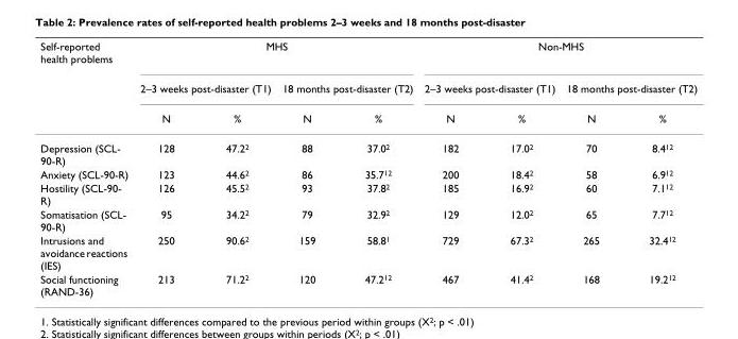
<table><thead><tr><td rowspan="3">Self-reported health problems</td><td colspan="4">MHS</td><td colspan="4">Non-MHS</td></tr><tr><td colspan="2">2–3 weeks post-disaster (T1)</td><td colspan="2">18 months post-disaster (T2)</td><td colspan="2">2–3 weeks post-disaster (T1)</td><td colspan="2">18 months post-disaster (T2)</td></tr><tr><td>N</td><td>%</td><td>N</td><td>%</td><td>N</td><td>%</td><td>N</td><td>%</td></tr></thead><tbody><tr><td>Depression (SCL- 90-R)</td><td>128</td><td>47.2<sup>2</sup></td><td>88</td><td>37.0<sup>2</sup></td><td>182</td><td>17.0<sup>2</sup></td><td>70</td><td>8.4<sup>12</sup></td></tr><tr><td>Anxiety (SCL-90-R)</td><td>123</td><td>44.6<sup>2</sup></td><td>86</td><td>35.7<sup>12</sup></td><td>200</td><td>18.4<sup>2</sup></td><td>58</td><td>6.9<sup>12</sup></td></tr><tr><td>Hostility (SCL-90- R)</td><td>126</td><td>45.5<sup>2</sup></td><td>93</td><td>37.8<sup>2</sup></td><td>185</td><td>16.9<sup>2</sup></td><td>60</td><td>7.1<sup>12</sup></td></tr><tr><td>Somatisation (SCL- 90-R)</td><td>95</td><td>34.2<sup>2</sup></td><td>79</td><td>32.9<sup>2</sup></td><td>129</td><td>12.0<sup>2</sup></td><td>65</td><td>7.7<sup>12</sup></td></tr><tr><td>Intrusions and avoidance reactions (IES)</td><td>250</td><td>90.6<sup>2</sup></td><td>159</td><td>58.8<sup>1</sup></td><td>729</td><td>67.3<sup>2</sup></td><td>265</td><td>32.4<sup>12</sup></td></tr><tr><td>Social functioning (RAND-36)</td><td>213</td><td>71.2<sup>2</sup></td><td>120</td><td>47.2<sup>12</sup></td><td>467</td><td>41.4<sup>2</sup></td><td>168</td><td>19.2<sup>12</sup></td></tr></tbody></table>